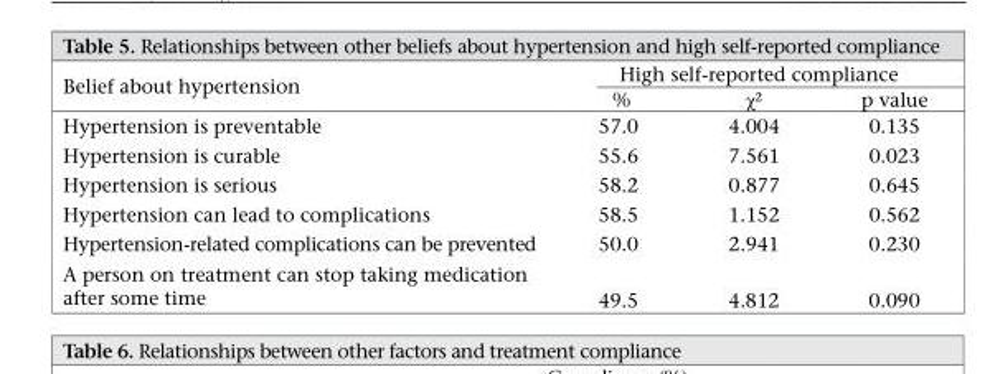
<table><thead><tr><td rowspan="2">Belief about hypertension</td><td colspan="3">High self-reported compliance</td></tr><tr><td>%</td><td>χ²</td><td>p value</td></tr></thead><tbody><tr><td>Hypertension is preventable</td><td>57.0</td><td>4.004</td><td>0.135</td></tr><tr><td>Hypertension is curable</td><td>55.6</td><td>7.561</td><td>0.023</td></tr><tr><td>Hypertension is serious</td><td>58.2</td><td>0.877</td><td>0.645</td></tr><tr><td>Hypertension can lead to complications</td><td>58.5</td><td>1.152</td><td>0.562</td></tr><tr><td>Hypertension-related complications can be prevented</td><td>50.0</td><td>2.941</td><td>0.230</td></tr><tr><td>A person on treatment can stop taking medication after some time</td><td>49.5</td><td>4.812</td><td>0.090</td></tr></tbody></table>